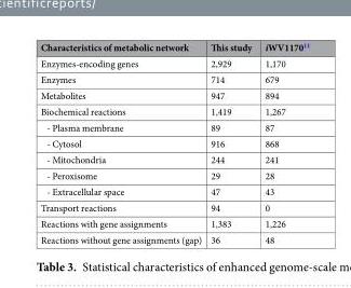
<table><thead><tr><td>Characteristics of metabolic network</td><td>This study</td><td>iWV1170<sup>11</sup></td></tr></thead><tbody><tr><td>Enzymes-encoding genes</td><td>2,929</td><td>1,170</td></tr><tr><td>Enzymes</td><td>714</td><td>679</td></tr><tr><td>Metabolites</td><td>947</td><td>894</td></tr><tr><td>Biochemical reactions</td><td>1,419</td><td>1,267</td></tr><tr><td>- Plasma membrane</td><td>89</td><td>87</td></tr><tr><td>- Cytosol</td><td>916</td><td>868</td></tr><tr><td>- Mitochondria</td><td>244</td><td>241</td></tr><tr><td>- Peroxisome</td><td>29</td><td>28</td></tr><tr><td>- Extracellular space</td><td>47</td><td>43</td></tr><tr><td>Transport reactions</td><td>94</td><td>0</td></tr><tr><td>Reactions with gene assignments</td><td>1,383</td><td>1,226</td></tr><tr><td>Reactions without gene assignments (gap)</td><td>36</td><td>48</td></tr></tbody></table>